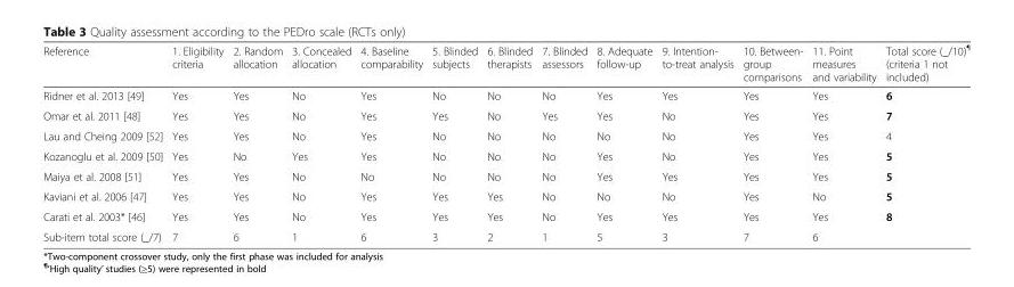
<table><thead><tr><td>Reference</td><td>1. Eligibility criteria</td><td>2. Random allocation</td><td>3. Concealed allocation</td><td>4. Baseline comparability</td><td>5. Blinded subjects</td><td>6. Blinded therapists</td><td>7. Blinded assessors</td><td>8. Adequate follow-up</td><td>9. Intention- to-treat analysis</td><td>10. Between- group comparisons</td><td>11. Point measures and variability</td><td>Total score (_/10)<sup>¶</sup> (criteria 1 not included)</td></tr></thead><tbody><tr><td>Ridner et al. 2013 [49]</td><td>Yes</td><td>Yes</td><td>No</td><td>Yes</td><td>No</td><td>No</td><td>No</td><td>Yes</td><td>Yes</td><td>Yes</td><td>Yes</td><td>6</td></tr><tr><td>Omar et al. 2011 [48]</td><td>Yes</td><td>Yes</td><td>No</td><td>Yes</td><td>Yes</td><td>No</td><td>Yes</td><td>Yes</td><td>No</td><td>Yes</td><td>Yes</td><td>7</td></tr><tr><td>Lau and Cheing 2009 [52]</td><td>Yes</td><td>Yes</td><td>No</td><td>Yes</td><td>No</td><td>No</td><td>No</td><td>No</td><td>No</td><td>Yes</td><td>Yes</td><td>4</td></tr><tr><td>Kozanoglu et al. 2009 [50]</td><td>Yes</td><td>No</td><td>Yes</td><td>Yes</td><td>No</td><td>No</td><td>No</td><td>Yes</td><td>No</td><td>Yes</td><td>Yes</td><td>5</td></tr><tr><td>Maiya et al. 2008 [51]</td><td>Yes</td><td>Yes</td><td>No</td><td>No</td><td>No</td><td>No</td><td>No</td><td>Yes</td><td>Yes</td><td>Yes</td><td>Yes</td><td>5</td></tr><tr><td>Kaviani et al. 2006 [47]</td><td>Yes</td><td>Yes</td><td>No</td><td>Yes</td><td>Yes</td><td>Yes</td><td>No</td><td>No</td><td>No</td><td>Yes</td><td>No</td><td>5</td></tr><tr><td>Carati et al. 2003* [46]</td><td>Yes</td><td>Yes</td><td>No</td><td>Yes</td><td>Yes</td><td>Yes</td><td>No</td><td>Yes</td><td>Yes</td><td>Yes</td><td>Yes</td><td>8</td></tr><tr><td>Sub-item total score (_/7)</td><td>7</td><td>6</td><td>1</td><td>6</td><td>3</td><td>2</td><td>1</td><td>5</td><td>3</td><td>7</td><td>6</td><td></td></tr></tbody></table>